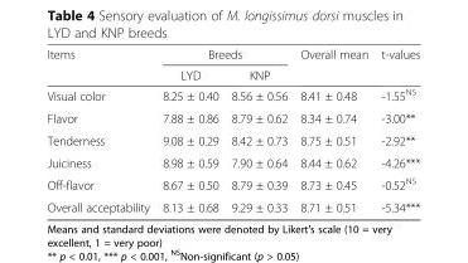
<table><thead><tr><td rowspan="2">Items</td><td colspan="2">Breeds</td><td rowspan="2">Overall mean</td><td rowspan="2">t-values</td></tr><tr><td>LYD</td><td>KNP</td></tr></thead><tbody><tr><td>Visual color</td><td>8.25 ± 0.40</td><td>8.56 ± 0.56</td><td>8.41 ± 0.48</td><td>-1.55<sup>NS</sup></td></tr><tr><td>Flavor</td><td>7.88 ± 0.86</td><td>8.79 ± 0.62</td><td>8.34 ± 0.74</td><td>-3.00**</td></tr><tr><td>Tenderness</td><td>9.08 ± 0.29</td><td>8.42 ± 0.73</td><td>8.75 ± 0.51</td><td>-2.92**</td></tr><tr><td>Juiciness</td><td>8.98 ± 0.59</td><td>7.90 ± 0.64</td><td>8.44 ± 0.62</td><td>-4.26***</td></tr><tr><td>Off-flavor</td><td>8.67 ± 0.50</td><td>8.79 ± 0.39</td><td>8.73 ± 0.45</td><td>-0.52<sup>NS</sup></td></tr><tr><td>Overall acceptability</td><td>8.13 ± 0.68</td><td>9.29 ± 0.33</td><td>8.71 ± 0.51</td><td>-5.34***</td></tr></tbody></table>